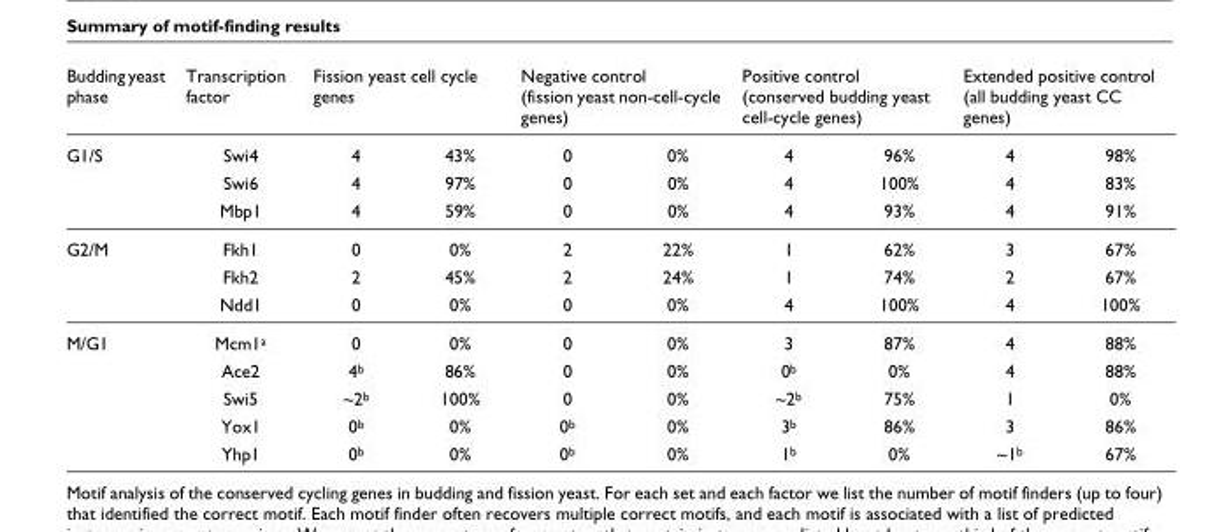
<table><thead><tr><td rowspan="2">Budding yeast phase G1/S</td><td rowspan="2">Transcription factor Swi4</td><td colspan="2">Fission yeast cell cycle genes</td><td colspan="2">Negative control (fission yeast non-cell-cycle genes)</td><td colspan="2">Positive control (conserved budding yeast cell-cycle genes)</td><td colspan="2">Extended positive control (all budding yeast CC genes)</td></tr><tr><td>4</td><td>43%</td><td>0</td><td>0%</td><td>4</td><td>96%</td><td>4</td><td>98%</td></tr></thead><tbody><tr><td></td><td>Swi6</td><td>4</td><td>97%</td><td>0</td><td>0%</td><td>4</td><td>100%</td><td>4</td><td>83%</td></tr><tr><td></td><td>Mbp1</td><td>4</td><td>59%</td><td>0</td><td>0%</td><td>4</td><td>93%</td><td>4</td><td>91%</td></tr><tr><td rowspan="3">G2/M</td><td>Fkh1</td><td>0</td><td>0%</td><td>2</td><td>22%</td><td>1</td><td>62%</td><td>3</td><td>67%</td></tr><tr><td>Fkh2</td><td>2</td><td>45%</td><td>2</td><td>24%</td><td>1</td><td>74%</td><td>2</td><td>67%</td></tr><tr><td>Ndd1</td><td>0</td><td>0%</td><td>0</td><td>0%</td><td>4</td><td>100%</td><td>4</td><td>100%</td></tr><tr><td rowspan="5">M/G1</td><td>Mcm1<sup>a</sup></td><td>0</td><td>0%</td><td>0</td><td>0%</td><td>3</td><td>87%</td><td>4</td><td>88%</td></tr><tr><td>Ace2</td><td>4<sup>b</sup></td><td>86%</td><td>0</td><td>0%</td><td>0<sup>b</sup></td><td>0%</td><td>4</td><td>88%</td></tr><tr><td>Swi5</td><td>~2<sup>b</sup></td><td>100%</td><td>0</td><td>0%</td><td>~2<sup>b</sup></td><td>75%</td><td>1</td><td>0%</td></tr><tr><td>Yox1</td><td>0<sup>b</sup></td><td>0%</td><td>0<sup>b</sup></td><td>0%</td><td>3<sup>b</sup></td><td>86%</td><td>3</td><td>86%</td></tr><tr><td>Yhp1</td><td>0<sup>b</sup></td><td>0%</td><td>0<sup>b</sup></td><td>0%</td><td>1<sup>b</sup></td><td>0%</td><td>~1<sup>b</sup></td><td>67%</td></tr></tbody></table>